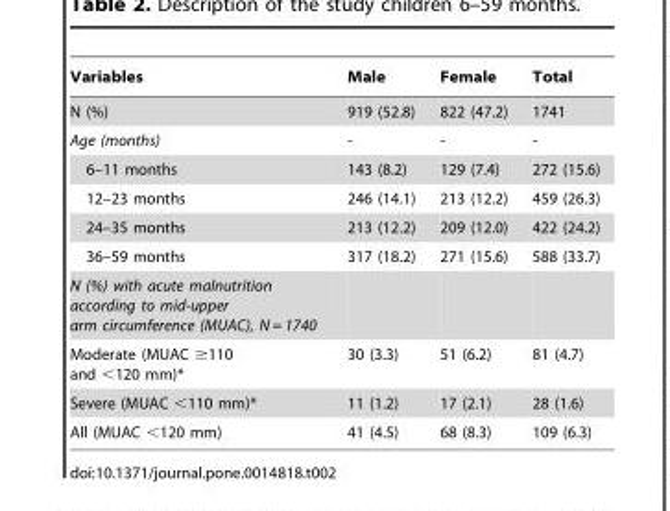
<table><thead><tr><td>Variables</td><td>Male</td><td>Female</td><td>Total</td></tr></thead><tbody><tr><td>N (%)</td><td>919 (52.8)</td><td>822 (47.2)</td><td>1741</td></tr><tr><td>Age (months)</td><td>-</td><td>-</td><td>-</td></tr><tr><td>6–11 months</td><td>143 (8.2)</td><td>129 (7.4)</td><td>272 (15.6)</td></tr><tr><td>12–23 months</td><td>246 (14.1)</td><td>213 (12.2)</td><td>459 (26.3)</td></tr><tr><td>24–35 months</td><td>213 (12.2)</td><td>209 (12.0)</td><td>422 (24.2)</td></tr><tr><td>36–59 months</td><td>317 (18.2)</td><td>271 (15.6)</td><td>588 (33.7)</td></tr><tr><td colspan="4">N (%) with acute malnutrition according to mid-upper arm circumference (MUAC), N = 1740</td></tr><tr><td>Moderate (MUAC ≥110 and &lt;120 mm)*</td><td>30 (3.3)</td><td>51 (6.2)</td><td>81 (4.7)</td></tr><tr><td>Severe (MUAC &lt;110 mm)*</td><td>11 (1.2)</td><td>17 (2.1)</td><td>28 (1.6)</td></tr><tr><td>All (MUAC &lt;120 mm)</td><td>41 (4.5)</td><td>68 (8.3)</td><td>109 (6.3)</td></tr></tbody></table>